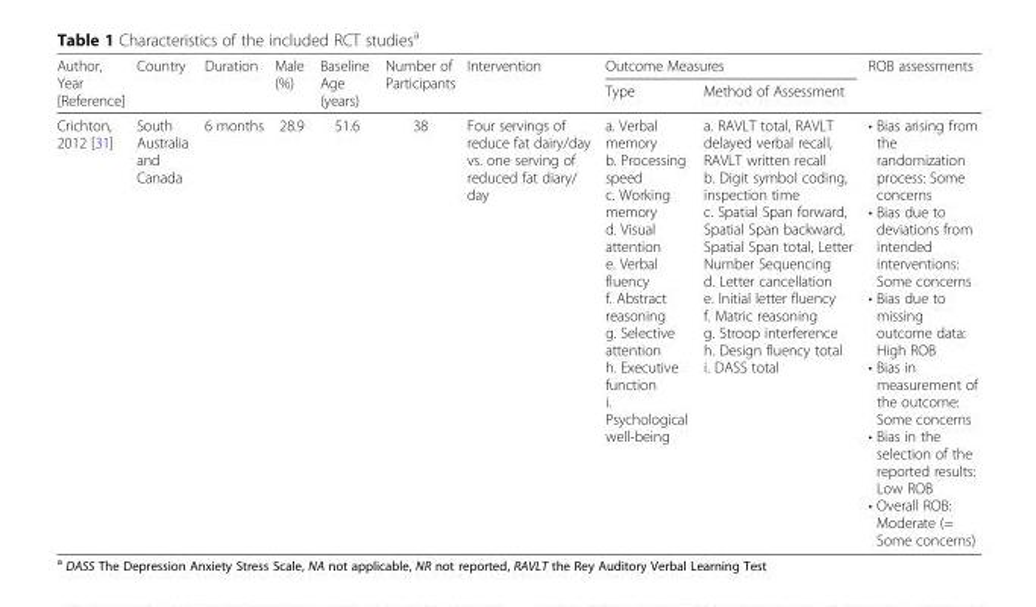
<table><thead><tr><td rowspan="2">Author, Year [Reference]</td><td rowspan="2">Country</td><td rowspan="2">Duration</td><td rowspan="2">Male (%)</td><td rowspan="2">Baseline Age (years)</td><td rowspan="2">Number of Participants</td><td rowspan="2">Intervention</td><td colspan="2">Outcome Measures</td><td rowspan="2">ROB assessments</td></tr><tr><td>Type</td><td>Method of Assessment</td></tr></thead><tbody><tr><td>Crichton, 2012 [31]</td><td>South Australia and Canada</td><td>6 months</td><td>28.9</td><td>51.6</td><td>38</td><td>Four servings of reduce fat dairy/day vs. one serving of reduced fat diary/ day</td><td>a. Verbal memory b. Processing speed c. Working memory d. Visual attention e. Verbal fluency f. Abstract reasoning g. Selective attention h. Executive function i. Psychological well-being</td><td>a. RAVLT total, RAVLT delayed verbal recall, RAVLT written recall b. Digit symbol coding, inspection time c. Spatial Span forward, Spatial Span backward, Spatial Span total, Letter Number Sequencing d. Letter cancellation e. Initial letter fluency f. Matric reasoning g. Stroop interference h. Design fluency total i. DASS total</td><td>• Bias arising from the randomization process: Some concerns • Bias due to deviations from intended interventions: Some concerns • Bias due to missing outcome data: High ROB • Bias in measurement of the outcome: Some concerns • Bias in the selection of the reported results: Low ROB • Overall ROB: Moderate (= Some concerns)</td></tr></tbody></table>